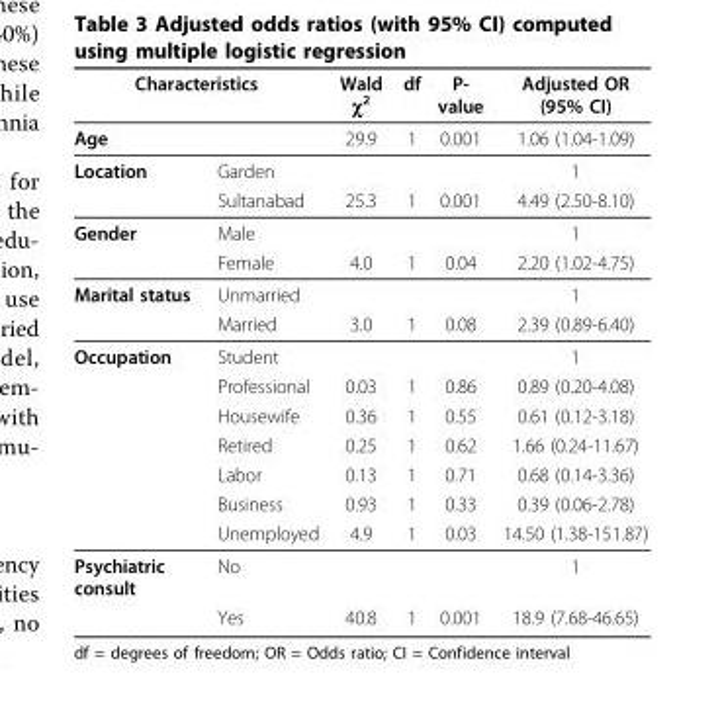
<table><thead><tr><td colspan="2">Characteristics</td><td rowspan="2">Wald χ2 29.9</td><td rowspan="2">df 1</td><td rowspan="2">P- value 0.001</td><td rowspan="2">Adjusted OR (95% CI) 1.06 (1.04-1.09)</td></tr><tr><td>Age</td><td></td></tr></thead><tbody><tr><td rowspan="2">Location</td><td>Garden</td><td></td><td></td><td></td><td>1</td></tr><tr><td>Sultanabad</td><td>25.3</td><td>1</td><td>0.001</td><td>4.49 (2.50-8.10)</td></tr><tr><td rowspan="2">Gender</td><td>Male</td><td></td><td></td><td></td><td>1</td></tr><tr><td>Female</td><td>4.0</td><td>1</td><td>0.04</td><td>2.20 (1.02-4.75)</td></tr><tr><td rowspan="2">Marital status</td><td>Unmarried</td><td></td><td></td><td></td><td>1</td></tr><tr><td>Married</td><td>3.0</td><td>1</td><td>0.08</td><td>2.39 (0.89-6.40)</td></tr><tr><td rowspan="7">Occupation</td><td>Student</td><td></td><td></td><td></td><td>1</td></tr><tr><td>Professional</td><td>0.03</td><td>1</td><td>0.86</td><td>0.89 (0.20-4.08)</td></tr><tr><td>Housewife</td><td>0.36</td><td>1</td><td>0.55</td><td>0.61 (0.12-3.18)</td></tr><tr><td>Retired</td><td>0.25</td><td>1</td><td>0.62</td><td>1.66 (0.24-11.67)</td></tr><tr><td>Labor</td><td>0.13</td><td>1</td><td>0.71</td><td>0.68 (0.14-3.36)</td></tr><tr><td>Business</td><td>0.93</td><td>1</td><td>0.33</td><td>0.39 (0.06-2.78)</td></tr><tr><td>Unemployed</td><td>4.9</td><td>1</td><td>0.03</td><td>14.50 (1.38-151.87)</td></tr><tr><td rowspan="2">Psychiatric consult</td><td>No</td><td></td><td></td><td></td><td>1</td></tr><tr><td>Yes</td><td>40.8</td><td>1</td><td>0.001</td><td>18.9 (7.68-46.65)</td></tr></tbody></table>